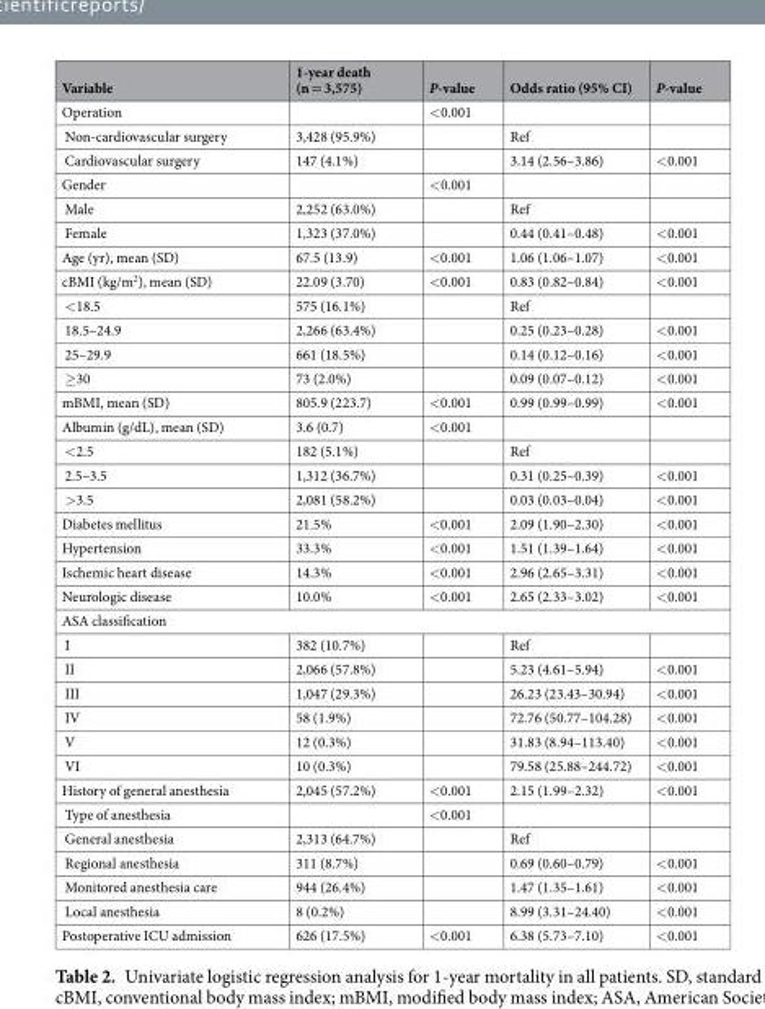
<table><thead><tr><td>Variable</td><td>1-year death (n = 3,575)</td><td>P-value</td><td>Odds ratio (95% CI)</td><td>P-value</td></tr></thead><tbody><tr><td>Operation</td><td></td><td>&lt;0.001</td><td></td><td></td></tr><tr><td>Non-cardiovascular surgery</td><td>3,428 (95.9%)</td><td></td><td>Ref</td><td></td></tr><tr><td>Cardiovascular surgery</td><td>147 (4.1%)</td><td></td><td>3.14 (2.56–3.86)</td><td>&lt;0.001</td></tr><tr><td>Gender</td><td></td><td>&lt;0.001</td><td></td><td></td></tr><tr><td>Male</td><td>2,252 (63.0%)</td><td></td><td>Ref</td><td></td></tr><tr><td>Female</td><td>1,323 (37.0%)</td><td></td><td>0.44 (0.41–0.48)</td><td>&lt;0.001</td></tr><tr><td>Age (yr), mean (SD)</td><td>67.5 (13.9)</td><td>&lt;0.001</td><td>1.06 (1.06–1.07)</td><td>&lt;0.001</td></tr><tr><td>cBMI (kg/m<sup>2</sup>), mean (SD)</td><td>22.09 (3.70)</td><td>&lt;0.001</td><td>0.83 (0.82–0.84)</td><td>&lt;0.001</td></tr><tr><td>&lt;18.5</td><td>575 (16.1%)</td><td></td><td>Ref</td><td></td></tr><tr><td>18.5–24.9</td><td>2,266 (63.4%)</td><td></td><td>0.25 (0.23–0.28)</td><td>&lt;0.001</td></tr><tr><td>25–29.9</td><td>661 (18.5%)</td><td></td><td>0.14 (0.12–0.16)</td><td>&lt;0.001</td></tr><tr><td>≥30</td><td>73 (2.0%)</td><td></td><td>0.09 (0.07–0.12)</td><td>&lt;0.001</td></tr><tr><td>mBMI, mean (SD)</td><td>805.9 (223.7)</td><td>&lt;0.001</td><td>0.99 (0.99–0.99)</td><td>&lt;0.001</td></tr><tr><td>Albumin (g/dL), mean (SD)</td><td>3.6 (0.7)</td><td>&lt;0.001</td><td></td><td></td></tr><tr><td>&lt;2.5</td><td>182 (5.1%)</td><td></td><td>Ref</td><td></td></tr><tr><td>2.5–3.5</td><td>1,312 (36.7%)</td><td></td><td>0.31 (0.25–0.39)</td><td>&lt;0.001</td></tr><tr><td>&gt;3.5</td><td>2,081 (58.2%)</td><td></td><td>0.03 (0.03–0.04)</td><td>&lt;0.001</td></tr><tr><td>Diabetes mellitus</td><td>21.5%</td><td>&lt;0.001</td><td>2.09 (1.90–2.30)</td><td>&lt;0.001</td></tr><tr><td>Hypertension</td><td>33.3%</td><td>&lt;0.001</td><td>1.51 (1.39–1.64)</td><td>&lt;0.001</td></tr><tr><td>Ischemic heart disease</td><td>14.3%</td><td>&lt;0.001</td><td>2.96 (2.65–3.31)</td><td>&lt;0.001</td></tr><tr><td>Neurologic disease</td><td>10.0%</td><td>&lt;0.001</td><td>2.65 (2.33–3.02)</td><td>&lt;0.001</td></tr><tr><td colspan="5">ASA classification</td></tr><tr><td>I</td><td>382 (10.7%)</td><td></td><td>Ref</td><td></td></tr><tr><td>II</td><td>2,066 (57.8%)</td><td></td><td>5.23 (4.61–5.94)</td><td>&lt;0.001</td></tr><tr><td>III</td><td>1,047 (29.3%)</td><td></td><td>26.23 (23.43–30.94)</td><td>&lt;0.001</td></tr><tr><td>IV</td><td>58 (1.9%)</td><td></td><td>72.76 (50.77–104.28)</td><td>&lt;0.001</td></tr><tr><td>V</td><td>12 (0.3%)</td><td></td><td>31.83 (8.94–113.40)</td><td>&lt;0.001</td></tr><tr><td>VI</td><td>10 (0.3%)</td><td></td><td>79.58 (25.88–244.72)</td><td>&lt;0.001</td></tr><tr><td>History of general anesthesia</td><td>2,045 (57.2%)</td><td>&lt;0.001</td><td>2.15 (1.99–2.32)</td><td>&lt;0.001</td></tr><tr><td>Type of anesthesia</td><td></td><td>&lt;0.001</td><td></td><td></td></tr><tr><td>General anesthesia</td><td>2,313 (64.7%)</td><td></td><td>Ref</td><td></td></tr><tr><td>Regional anesthesia</td><td>311 (8.7%)</td><td></td><td>0.69 (0.60–0.79)</td><td>&lt;0.001</td></tr><tr><td>Monitored anesthesia care</td><td>944 (26.4%)</td><td></td><td>1.47 (1.35–1.61)</td><td>&lt;0.001</td></tr><tr><td>Local anesthesia</td><td>8 (0.2%)</td><td></td><td>8.99 (3.31–24.40)</td><td>&lt;0.001</td></tr><tr><td>Postoperative ICU admission</td><td>626 (17.5%)</td><td>&lt;0.001</td><td>6.38 (5.73–7.10)</td><td>&lt;0.001</td></tr></tbody></table>